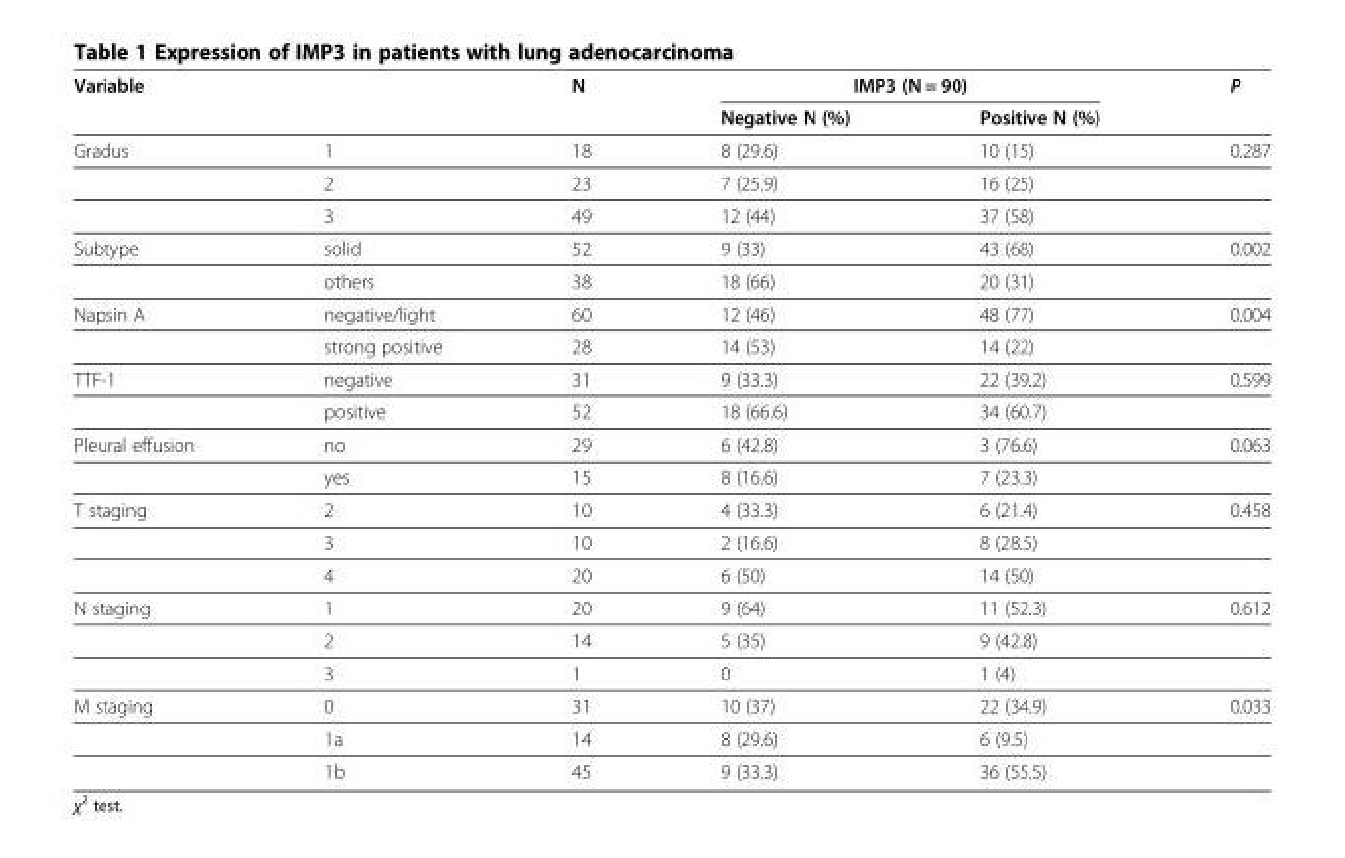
<table><thead><tr><td rowspan="2">Variable</td><td rowspan="2"></td><td rowspan="2">N</td><td colspan="2">IMP3 (N = 90)</td><td rowspan="2">P</td></tr><tr><td>Negative N (%)</td><td>Positive N (%)</td></tr></thead><tbody><tr><td rowspan="3">Gradus</td><td>1</td><td>18</td><td>8 (29.6)</td><td>10 (15)</td><td>0.287</td></tr><tr><td>2</td><td>23</td><td>7 (25.9)</td><td>16 (25)</td><td></td></tr><tr><td>3</td><td>49</td><td>12 (44)</td><td>37 (58)</td><td></td></tr><tr><td rowspan="2">Subtype</td><td>solid</td><td>52</td><td>9 (33)</td><td>43 (68)</td><td>0.002</td></tr><tr><td>others</td><td>38</td><td>18 (66)</td><td>20 (31)</td><td></td></tr><tr><td rowspan="2">Napsin A</td><td>negative/light</td><td>60</td><td>12 (46)</td><td>48 (77)</td><td>0.004</td></tr><tr><td>strong positive</td><td>28</td><td>14 (53)</td><td>14 (22)</td><td></td></tr><tr><td rowspan="2">TTF-1</td><td>negative</td><td>31</td><td>9 (33.3)</td><td>22 (39.2)</td><td>0.599</td></tr><tr><td>positive</td><td>52</td><td>18 (66.6)</td><td>34 (60.7)</td><td></td></tr><tr><td rowspan="2">Pleural effusion</td><td>no</td><td>29</td><td>6 (42.8)</td><td>3 (76.6)</td><td>0.063</td></tr><tr><td>yes</td><td>15</td><td>8 (16.6)</td><td>7 (23.3)</td><td></td></tr><tr><td rowspan="3">T staging</td><td>2</td><td>10</td><td>4 (33.3)</td><td>6 (21.4)</td><td>0.458</td></tr><tr><td>3</td><td>10</td><td>2 (16.6)</td><td>8 (28.5)</td><td></td></tr><tr><td>4</td><td>20</td><td>6 (50)</td><td>14 (50)</td><td></td></tr><tr><td rowspan="3">N staging</td><td>1</td><td>20</td><td>9 (64)</td><td>11 (52.3)</td><td>0.612</td></tr><tr><td>2</td><td>14</td><td>5 (35)</td><td>9 (42.8)</td><td></td></tr><tr><td>3</td><td>1</td><td>0</td><td>1 (4)</td><td></td></tr><tr><td rowspan="3">M staging</td><td>0</td><td>31</td><td>10 (37)</td><td>22 (34.9)</td><td>0.033</td></tr><tr><td>1a</td><td>14</td><td>8 (29.6)</td><td>6 (9.5)</td><td></td></tr><tr><td>1b</td><td>45</td><td>9 (33.3)</td><td>36 (55.5)</td><td></td></tr></tbody></table>